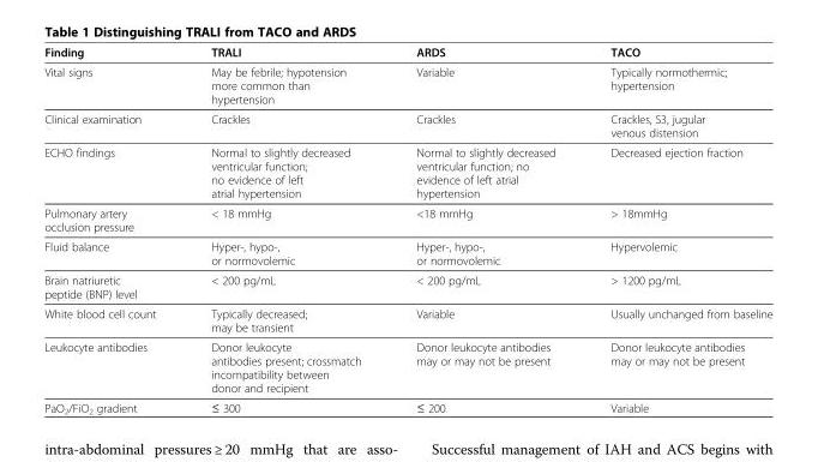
<table><thead><tr><td>Finding</td><td>TRALI</td><td>ARDS</td><td>TACO</td></tr></thead><tbody><tr><td>Vital signs</td><td>May be febrile; hypotension more common than hypertension</td><td>Variable</td><td>Typically normothermic; hypertension</td></tr><tr><td>Clinical examination</td><td>Crackles</td><td>Crackles</td><td>Crackles, S3, jugular venous distension</td></tr><tr><td>ECHO findings</td><td>Normal to slightly decreased ventricular function; no evidence of left atrial hypertension</td><td>Normal to slightly decreased ventricular function; no evidence of left atrial hypertension</td><td>Decreased ejection fraction</td></tr><tr><td>Pulmonary artery occlusion pressure</td><td>&lt; 18 mmHg</td><td>&lt;18 mmHg</td><td>&gt; 18mmHg</td></tr><tr><td>Fluid balance</td><td>Hyper-, hypo-, or normovolemic</td><td>Hyper-, hypo-, or normovolemic</td><td>Hypervolemic</td></tr><tr><td>Brain natriuretic peptide (BNP) level</td><td>&lt; 200 pg/mL</td><td>&lt; 200 pg/mL</td><td>&gt; 1200 pg/mL</td></tr><tr><td>White blood cell count</td><td>Typically decreased; may be transient</td><td>Variable</td><td>Usually unchanged from baseline</td></tr><tr><td>Leukocyte antibodies</td><td>Donor leukocyte antibodies present; crossmatch incompatibility between donor and recipient</td><td>Donor leukocyte antibodies may or may not be present</td><td>Donor leukocyte antibodies may or may not be present</td></tr><tr><td>PaO<sub>2</sub>/FiO<sub>2</sub> gradient</td><td>≤ 300</td><td>≤ 200</td><td>Variable</td></tr></tbody></table>